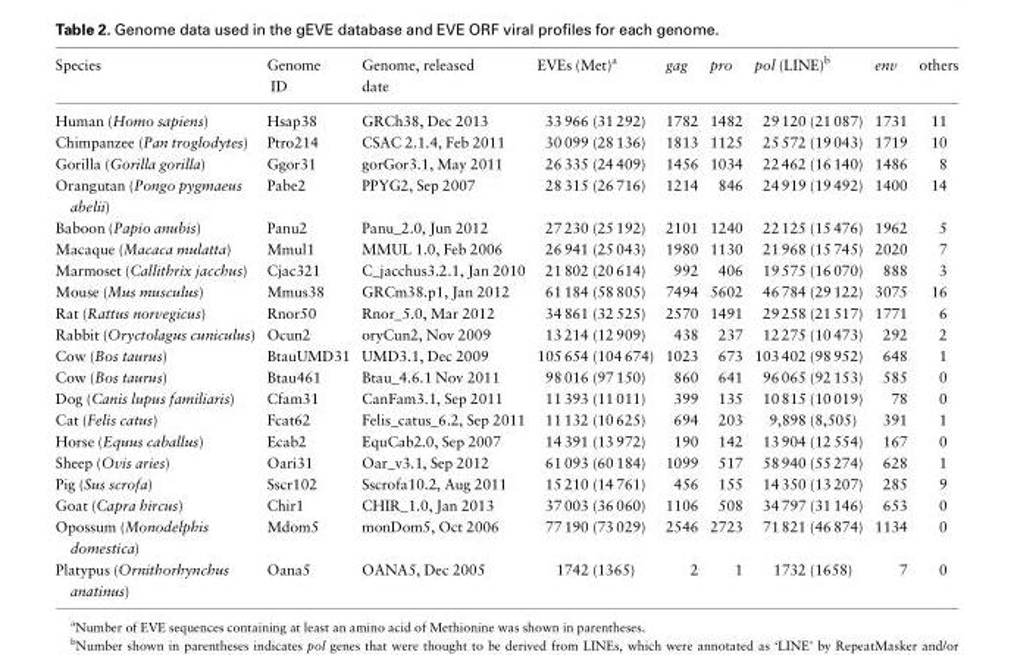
<table><thead><tr><td>Species</td><td>Genome ID</td><td>Genome, released date</td><td>EVEs (Met)<sup>a</sup></td><td>gag</td><td>pro</td><td>pol (LINE)<sup>b</sup></td><td>env</td><td>others</td></tr></thead><tbody><tr><td>Human (Homo sapiens)</td><td>Hsap38</td><td>GRCh38, Dec 2013</td><td>33 966 (31 292)</td><td>1782</td><td>1482</td><td>29 120 (21 087)</td><td>1731</td><td>11</td></tr><tr><td>Chimpanzee (Pan troglodytes)</td><td>Ptro214</td><td>CSAC 2.1.4, Feb 2011</td><td>30 099 (28 136)</td><td>1813</td><td>1125</td><td>25 572 (19 043)</td><td>1719</td><td>10</td></tr><tr><td>Gorilla (Gorilla gorilla)</td><td>Ggor31</td><td>gorGor3.1, May 2011</td><td>26 335 (24 409)</td><td>1456</td><td>1034</td><td>22 462 (16 140)</td><td>1486</td><td>8</td></tr><tr><td>Orangutan (Pongo pygmaeus abelii)</td><td>Pabe2</td><td>PPYG2, Sep 2007</td><td>28 315 (26 716)</td><td>1214</td><td>846</td><td>24 919 (19 492)</td><td>1400</td><td>14</td></tr><tr><td>Baboon (Papio anubis)</td><td>Panu2</td><td>Panu_2.0, Jun 2012</td><td>27 230 (25 192)</td><td>2101</td><td>1240</td><td>22 125 (15 476)</td><td>1962</td><td>5</td></tr><tr><td>Macaque (Macaca mulatta)</td><td>Mmul1</td><td>MMUL 1.0, Feb 2006</td><td>26 941 (25 043)</td><td>1980</td><td>1130</td><td>21 968 (15 745)</td><td>2020</td><td>7</td></tr><tr><td>Marmoset (Callithrix jacchus)</td><td>Cjac321</td><td>C_jacchus3.2.1, Jan 2010</td><td>21 802 (20 614)</td><td>992</td><td>406</td><td>19 575 (16 070)</td><td>888</td><td>3</td></tr><tr><td>Mouse (Mus musculus)</td><td>Mmus38</td><td>GRCm38.p1, Jan 2012</td><td>61 184 (58 805)</td><td>7494</td><td>5602</td><td>46 784 (29 122)</td><td>3075</td><td>16</td></tr><tr><td>Rat (Rattus norvegicus)</td><td>Rnor50</td><td>Rnor_5.0, Mar 2012</td><td>34 861 (32 525)</td><td>2570</td><td>1491</td><td>29 258 (21 517)</td><td>1771</td><td>6</td></tr><tr><td>Rabbit (Oryctolagus cuniculus)</td><td>Ocun2</td><td>oryCun2, Nov 2009</td><td>13 214 (12 909)</td><td>438</td><td>237</td><td>12 275 (10 473)</td><td>292</td><td>2</td></tr><tr><td>Cow (Bos taurus)</td><td>BtauUMD31</td><td>UMD3.1, Dec 2009</td><td>105 654 (104 674)</td><td>1023</td><td>673</td><td>103 402 (98 952)</td><td>648</td><td>1</td></tr><tr><td>Cow (Bos taurus)</td><td>Btau461</td><td>Btau_4.6.1 Nov 2011</td><td>98 016 (97 150)</td><td>860</td><td>641</td><td>96 065 (92 153)</td><td>585</td><td>0</td></tr><tr><td>Dog (Canis lupus familiaris)</td><td>Cfam31</td><td>CanFam3.1, Sep 2011</td><td>11 393 (11 011)</td><td>399</td><td>135</td><td>10 815 (10 019)</td><td>78</td><td>0</td></tr><tr><td>Cat (Felis catus)</td><td>Fcat62</td><td>Felis_catus_6.2, Sep 2011</td><td>11 132 (10 625)</td><td>694</td><td>203</td><td>9,898 (8,505)</td><td>391</td><td>1</td></tr><tr><td>Horse (Equus caballus)</td><td>Ecab2</td><td>EquCab2.0, Sep 2007</td><td>14 391 (13 972)</td><td>190</td><td>142</td><td>13 904 (12 554)</td><td>167</td><td>0</td></tr><tr><td>Sheep (Ovis aries)</td><td>Oari31</td><td>Oar_v3.1, Sep 2012</td><td>61 093 (60 184)</td><td>1099</td><td>517</td><td>58 940 (55 274)</td><td>628</td><td>1</td></tr><tr><td>Pig (Sus scrofa)</td><td>Sscr102</td><td>Sscrofa10.2, Aug 2011</td><td>15 210 (14 761)</td><td>456</td><td>155</td><td>14 350 (13 207)</td><td>285</td><td>9</td></tr><tr><td>Goat (Capra hircus)</td><td>Chir1</td><td>CHIR_1.0, Jan 2013</td><td>37 003 (36 060)</td><td>1106</td><td>508</td><td>34 797 (31 146)</td><td>653</td><td>0</td></tr><tr><td>Opossum (Monodelphis domestica)</td><td>Mdom5</td><td>monDom5, Oct 2006</td><td>77 190 (73 029)</td><td>2546</td><td>2723</td><td>71 821 (46 874)</td><td>1134</td><td>0</td></tr><tr><td>Platypus (Ornithorhynchus anatinus)</td><td>Oana5</td><td>OANA5, Dec 2005</td><td>1742 (1365)</td><td>2</td><td>1</td><td>1732 (1658)</td><td>7</td><td>0</td></tr></tbody></table>